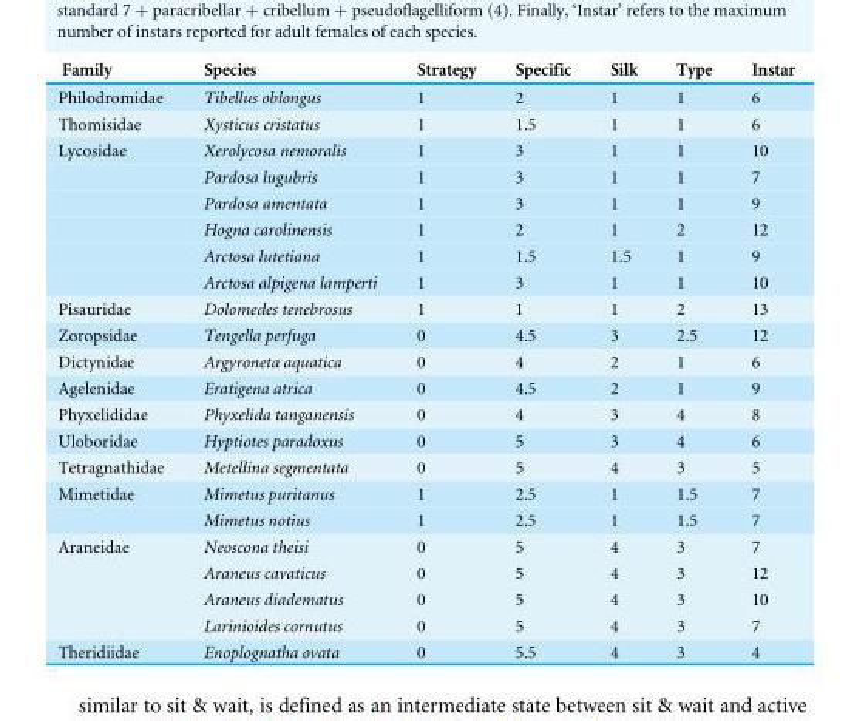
<table><thead><tr><td>Family</td><td>Species</td><td>Strategy</td><td>Specific</td><td>Silk</td><td>Type</td><td>Instar</td></tr></thead><tbody><tr><td>Philodromidae</td><td>Tibellus oblongus</td><td>1</td><td>2</td><td>1</td><td>1</td><td>6</td></tr><tr><td>Thomisidae</td><td>Xysticus cristatus</td><td>1</td><td>1.5</td><td>1</td><td>1</td><td>6</td></tr><tr><td rowspan="6">Lycosidae</td><td>Xerolycosa nemoralis</td><td>1</td><td>3</td><td>1</td><td>1</td><td>10</td></tr><tr><td>Pardosa lugubris</td><td>1</td><td>3</td><td>1</td><td>1</td><td>7</td></tr><tr><td>Pardosa amentata</td><td>1</td><td>3</td><td>1</td><td>1</td><td>9</td></tr><tr><td>Hogna carolinensis</td><td>1</td><td>2</td><td>1</td><td>2</td><td>12</td></tr><tr><td>Arctosa lutetiana</td><td>1</td><td>1.5</td><td>1.5</td><td>1</td><td>9</td></tr><tr><td>Arctosa alpigena lamperti</td><td>1</td><td>3</td><td>1</td><td>1</td><td>10</td></tr><tr><td>Pisauridae</td><td>Dolomedes tenebrosus</td><td>1</td><td>1</td><td>1</td><td>2</td><td>13</td></tr><tr><td>Zoropsidae</td><td>Tengella perfuga</td><td>0</td><td>4.5</td><td>3</td><td>2.5</td><td>12</td></tr><tr><td>Dictynidae</td><td>Argyroneta aquatica</td><td>0</td><td>4</td><td>2</td><td>1</td><td>6</td></tr><tr><td>Agelenidae</td><td>Eratigena atrica</td><td>0</td><td>4.5</td><td>2</td><td>1</td><td>9</td></tr><tr><td>Phyxelididae</td><td>Phyxelida tanganensis</td><td>0</td><td>4</td><td>3</td><td>4</td><td>8</td></tr><tr><td>Uloboridae</td><td>Hyptiotes paradoxus</td><td>0</td><td>5</td><td>3</td><td>4</td><td>6</td></tr><tr><td>Tetragnathidae</td><td>Metellina segmentata</td><td>0</td><td>5</td><td>4</td><td>3</td><td>5</td></tr><tr><td rowspan="2">Mimetidae</td><td>Mimetus puritanus</td><td>1</td><td>2.5</td><td>1</td><td>1.5</td><td>7</td></tr><tr><td>Mimetus notius</td><td>1</td><td>2.5</td><td>1</td><td>1.5</td><td>7</td></tr><tr><td rowspan="4">Araneidae</td><td>Neoscona theisi</td><td>0</td><td>5</td><td>4</td><td>3</td><td>7</td></tr><tr><td>Araneus cavaticus</td><td>0</td><td>5</td><td>4</td><td>3</td><td>12</td></tr><tr><td>Araneus diadematus</td><td>0</td><td>5</td><td>4</td><td>3</td><td>10</td></tr><tr><td>Larinioides cornutus</td><td>0</td><td>5</td><td>4</td><td>3</td><td>7</td></tr><tr><td>Theridiidae</td><td>Enoplognatha ovata</td><td>0</td><td>5.5</td><td>4</td><td>3</td><td>4</td></tr></tbody></table>